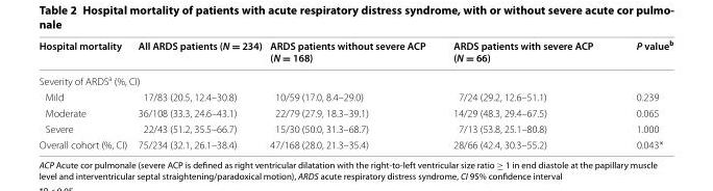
<table><thead><tr><td>Hospital mortality</td><td>All ARDS patients (N = 234)</td><td>ARDS patients without severe ACP (N = 168)</td><td>ARDS patients with severe ACP (N = 66)</td><td>P value<sup>b</sup></td></tr></thead><tbody><tr><td colspan="5">Severity of ARDS<sup>a</sup> (%, CI)</td></tr><tr><td>Mild</td><td>17/83 (20.5, 12.4–30.8)</td><td>10/59 (17.0, 8.4–29.0)</td><td>7/24 (29.2, 12.6–51.1)</td><td>0.239</td></tr><tr><td>Moderate</td><td>36/108 (33.3, 24.6–43.1)</td><td>22/79 (27.9, 18.3–39.1)</td><td>14/29 (48.3, 29.4–67.5)</td><td>0.065</td></tr><tr><td>Severe</td><td>22/43 (51.2, 35.5–66.7)</td><td>15/30 (50.0, 31.3–68.7)</td><td>7/13 (53.8, 25.1–80.8)</td><td>1.000</td></tr><tr><td>Overall cohort (%, CI)</td><td>75/234 (32.1, 26.1–38.4)</td><td>47/168 (28.0, 21.3–35.4)</td><td>28/66 (42.4, 30.3–55.2)</td><td>0.043*</td></tr></tbody></table>